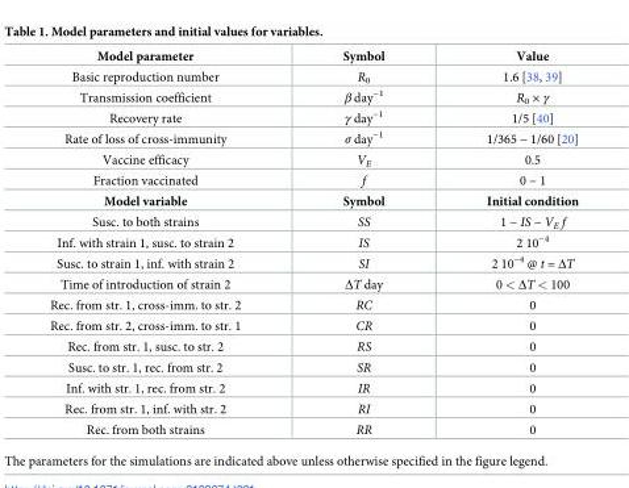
<table><tbody><tr><td>Model parameter</td><td>Symbol</td><td>Value</td></tr><tr><td>Basic reproduction number</td><td>R<sub>0</sub></td><td>1.6 [38, 39]</td></tr><tr><td>Transmission coefficient</td><td>β day<sup>−1</sup></td><td>R<sub>0</sub> × γ</td></tr><tr><td>Recovery rate</td><td>γ day<sup>−1</sup></td><td>1/5 [40]</td></tr><tr><td>Rate of loss of cross-immunity</td><td>σ day<sup>−1</sup></td><td>1/365 − 1/60 [20]</td></tr><tr><td>Vaccine efficacy</td><td>V<sub>E</sub></td><td>0.5</td></tr><tr><td>Fraction vaccinated</td><td>f</td><td>0 − 1</td></tr><tr><td>Model variable</td><td>Symbol</td><td>Initial condition</td></tr><tr><td>Susc. to both strains</td><td>SS</td><td>1 − IS − V<sub>E</sub> f</td></tr><tr><td>Inf. with strain 1, susc. to strain 2</td><td>IS</td><td>2 10<sup>−4</sup></td></tr><tr><td>Susc. to strain 1, inf. with strain 2</td><td>SI</td><td>2 10<sup>−4</sup> @ t = ΔT</td></tr><tr><td>Time of introduction of strain 2</td><td>ΔT day</td><td>0 &lt; ΔT &lt; 100</td></tr><tr><td>Rec. from str. 1, cross-imm. to str. 2</td><td>RC</td><td>0</td></tr><tr><td>Rec. from str. 2, cross-imm. to str. 1</td><td>CR</td><td>0</td></tr><tr><td>Rec. from str. 1, susc. to str. 2</td><td>RS</td><td>0</td></tr><tr><td>Susc. to str. 1, rec. from str. 2</td><td>SR</td><td>0</td></tr><tr><td>Inf. with str. 1, rec. from str. 2</td><td>IR</td><td>0</td></tr><tr><td>Rec. from str. 1, inf. with str. 2</td><td>RI</td><td>0</td></tr><tr><td>Rec. from both strains</td><td>RR</td><td>0</td></tr></tbody></table>